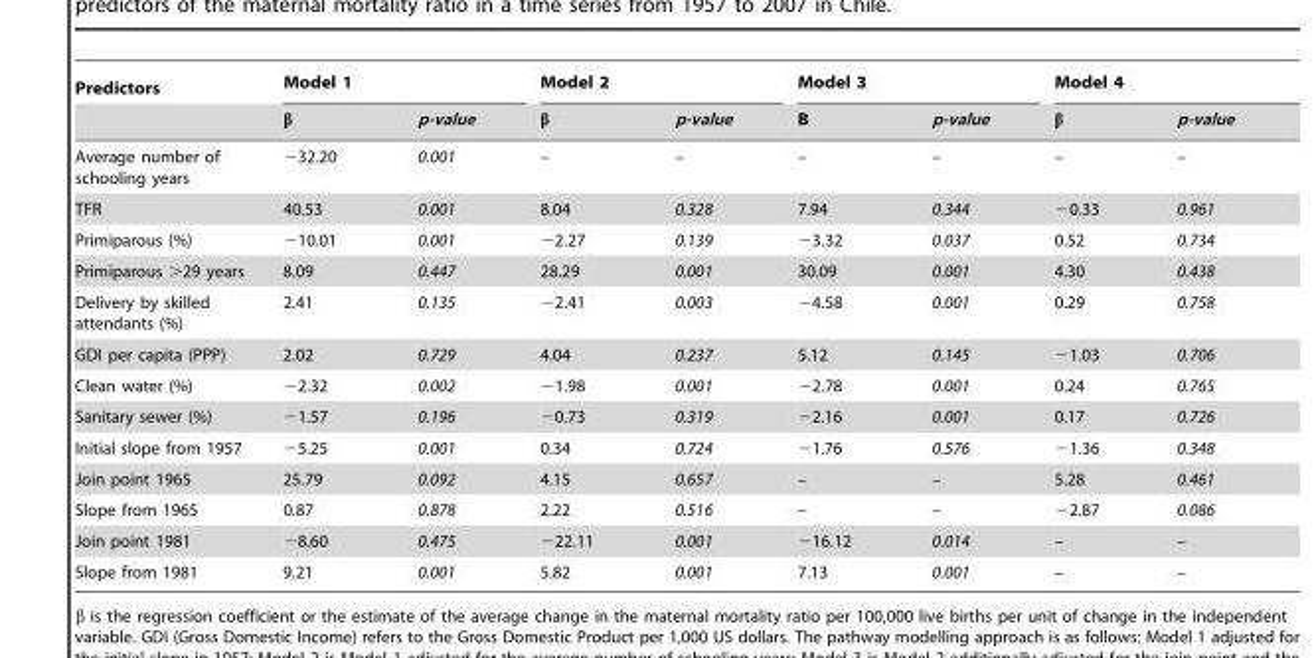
<table><thead><tr><td rowspan="2">Predictors</td><td colspan="2">Model 1</td><td colspan="2">Model 2</td><td colspan="2">Model 3</td><td colspan="2">Model 4</td></tr><tr><td>β</td><td>p-value</td><td>β</td><td>p-value</td><td>B</td><td>p-value</td><td>β</td><td>p-value</td></tr></thead><tbody><tr><td>Average number of schooling years</td><td>−32.20</td><td>0.001</td><td>–</td><td>–</td><td>–</td><td>–</td><td>–</td><td>–</td></tr><tr><td>TFR</td><td>40.53</td><td>0.001</td><td>8.04</td><td>0.328</td><td>7.94</td><td>0.344</td><td>−0.33</td><td>0.961</td></tr><tr><td>Primiparous (%)</td><td>−10.01</td><td>0.001</td><td>−2.27</td><td>0.139</td><td>−3.32</td><td>0.037</td><td>0.52</td><td>0.734</td></tr><tr><td>Primiparous &gt;29 years</td><td>8.09</td><td>0.447</td><td>28.29</td><td>0.001</td><td>30.09</td><td>0.001</td><td>4.30</td><td>0.438</td></tr><tr><td>Delivery by skilled attendants (%)</td><td>2.41</td><td>0.135</td><td>−2.41</td><td>0.003</td><td>−4.58</td><td>0.001</td><td>0.29</td><td>0.758</td></tr><tr><td>GDI per capita (PPP)</td><td>2.02</td><td>0.729</td><td>4.04</td><td>0.237</td><td>5.12</td><td>0.145</td><td>−1.03</td><td>0.706</td></tr><tr><td>Clean water (%)</td><td>−2.32</td><td>0.002</td><td>−1.98</td><td>0.001</td><td>−2.78</td><td>0.001</td><td>0.24</td><td>0.765</td></tr><tr><td>Sanitary sewer (%)</td><td>−1.57</td><td>0.196</td><td>−0.73</td><td>0.319</td><td>−2.16</td><td>0.001</td><td>0.17</td><td>0.726</td></tr><tr><td>Initial slope from 1957</td><td>−5.25</td><td>0.001</td><td>0.34</td><td>0.724</td><td>−1.76</td><td>0.576</td><td>−1.36</td><td>0.348</td></tr><tr><td>Join point 1965</td><td>25.79</td><td>0.092</td><td>4.15</td><td>0.657</td><td>–</td><td>–</td><td>5.28</td><td>0.461</td></tr><tr><td>Slope from 1965</td><td>0.87</td><td>0.878</td><td>2.22</td><td>0.516</td><td>–</td><td>–</td><td>−2.87</td><td>0.086</td></tr><tr><td>Join point 1981</td><td>−8.60</td><td>0.475</td><td>−22.11</td><td>0.001</td><td>−16.12</td><td>0.014</td><td>–</td><td>–</td></tr><tr><td>Slope from 1981</td><td>9.21</td><td>0.001</td><td>5.82</td><td>0.001</td><td>7.13</td><td>0.001</td><td>–</td><td>–</td></tr></tbody></table>